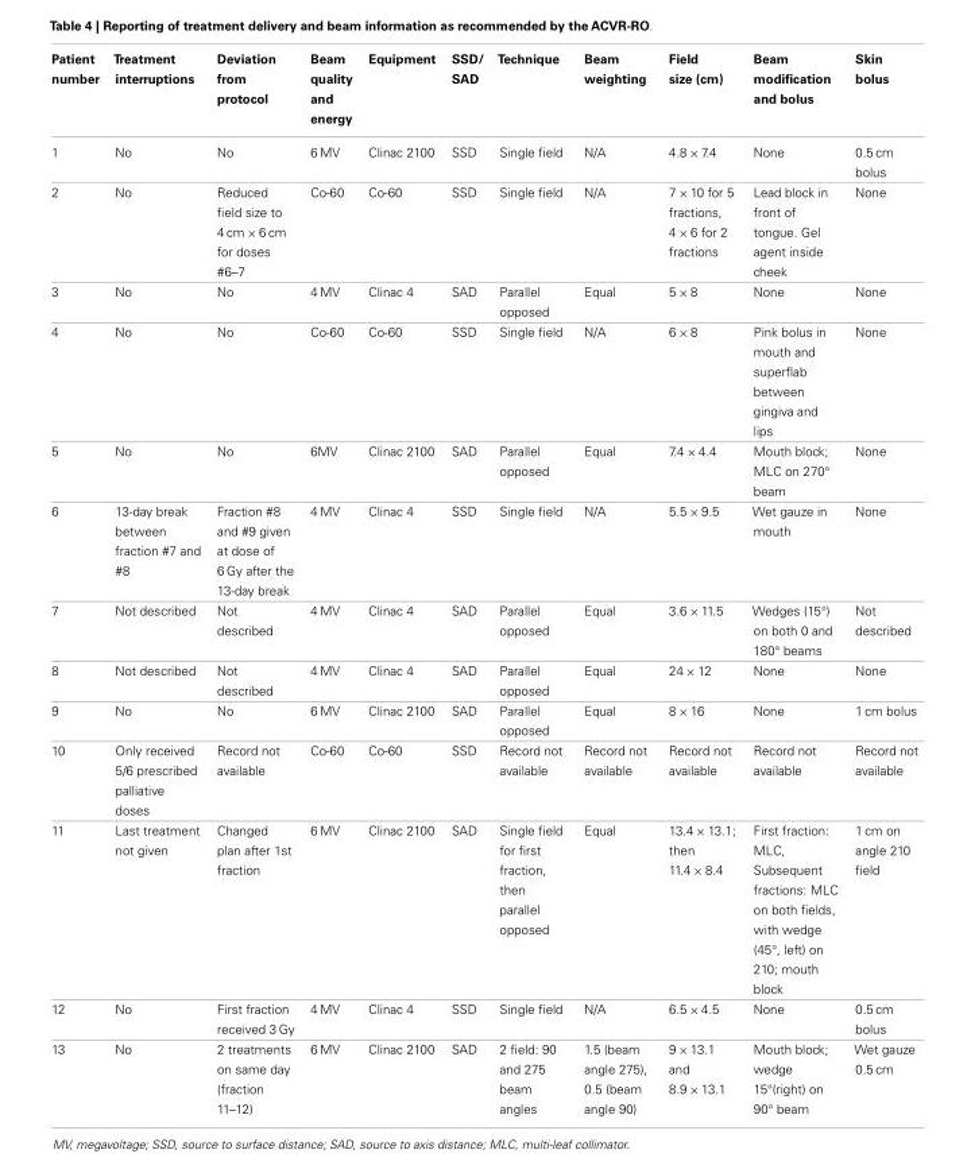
<table><thead><tr><td>Patient number</td><td>Treatment interruptions</td><td>Deviation from protocol</td><td>Beam quality and energy</td><td>Equipment</td><td>SSD/ SAD</td><td>Technique</td><td>Beam weighting</td><td>Field size (cm)</td><td>Beam modification and bolus</td><td>Skin bolus</td></tr></thead><tbody><tr><td>1</td><td>No</td><td>No</td><td>6 MV</td><td>Clinac 2100</td><td>SSD</td><td>Single field</td><td>N/A</td><td>4.8 × 7.4</td><td>None</td><td>0.5 cm bolus</td></tr><tr><td>2</td><td>No</td><td>Reduced field size to 4 cm × 6 cm for doses #6–7</td><td>Co-60</td><td>Co-60</td><td>SSD</td><td>Single field</td><td>N/A</td><td>7 × 10 for 5 fractions, 4 × 6 for 2 fractions</td><td>Lead block in front of tongue. Gel agent inside cheek</td><td>None</td></tr><tr><td>3</td><td>No</td><td>No</td><td>4 MV</td><td>Clinac 4</td><td>SAD</td><td>Parallel opposed</td><td>Equal</td><td>5 × 8</td><td>None</td><td>None</td></tr><tr><td>4</td><td>No</td><td>No</td><td>Co-60</td><td>Co-60</td><td>SSD</td><td>Single field</td><td>N/A</td><td>6 × 8</td><td>Pink bolus in mouth and superflab between gingiva and lips</td><td>None</td></tr><tr><td>5</td><td>No</td><td>No</td><td>6MV</td><td>Clinac 2100</td><td>SAD</td><td>Parallel opposed</td><td>Equal</td><td>7.4 × 4.4</td><td>Mouth block; MLC on 270° beam</td><td>None</td></tr><tr><td>6</td><td>13-day break between fraction #7 and #8</td><td>Fraction #8 and #9 given at dose of 6 Gy after the 13-day break</td><td>4 MV</td><td>Clinac 4</td><td>SSD</td><td>Single field</td><td>N/A</td><td>5.5 × 9.5</td><td>Wet gauze in mouth</td><td>None</td></tr><tr><td>7</td><td>Not described</td><td>Not described</td><td>4 MV</td><td>Clinac 4</td><td>SAD</td><td>Parallel opposed</td><td>Equal</td><td>3.6 × 11.5</td><td>Wedges (15°) on both 0 and 180° beams</td><td>Not described</td></tr><tr><td>8</td><td>Not described</td><td>Not described</td><td>4 MV</td><td>Clinac 4</td><td>SAD</td><td>Parallel opposed</td><td>Equal</td><td>24 × 12</td><td>None</td><td>None</td></tr><tr><td>9</td><td>No</td><td>No</td><td>6 MV</td><td>Clinac 2100</td><td>SAD</td><td>Parallel opposed</td><td>Equal</td><td>8 × 16</td><td>None</td><td>1 cm bolus</td></tr><tr><td>10</td><td>Only received 5/6 prescribed palliative doses</td><td>Record not available</td><td>Co-60</td><td>Co-60</td><td>SSD</td><td>Record not available</td><td>Record not available</td><td>Record not available</td><td>Record not available</td><td>Record not available</td></tr><tr><td>11</td><td>Last treatment not given</td><td>Changed plan after 1st fraction</td><td>6 MV</td><td>Clinac 2100</td><td>SAD</td><td>Single field for first fraction, then parallel opposed</td><td>Equal</td><td>13.4 × 13.1; then 11.4 × 8.4</td><td>First fraction: MLC, Subsequent fractions: MLC on both fields, with wedge (45°, left) on 210; mouth block</td><td>1 cm on angle 210 field</td></tr><tr><td>12</td><td>No</td><td>First fraction received 3 Gy</td><td>4 MV</td><td>Clinac 4</td><td>SSD</td><td>Single field</td><td>N/A</td><td>6.5 × 4.5</td><td>None</td><td>0.5 cm bolus</td></tr><tr><td>13</td><td>No</td><td>2 treatments on same day (fraction 11–12)</td><td>6 MV</td><td>Clinac 2100</td><td>SAD</td><td>2 field: 90 and 275 beam angles</td><td>1.5 (beam angle 275), 0.5 (beam angle 90)</td><td>9 × 13.1 and 8.9 × 13.1</td><td>Mouth block; wedge 15°(right) on 90° beam</td><td>Wet gauze 0.5 cm</td></tr></tbody></table>